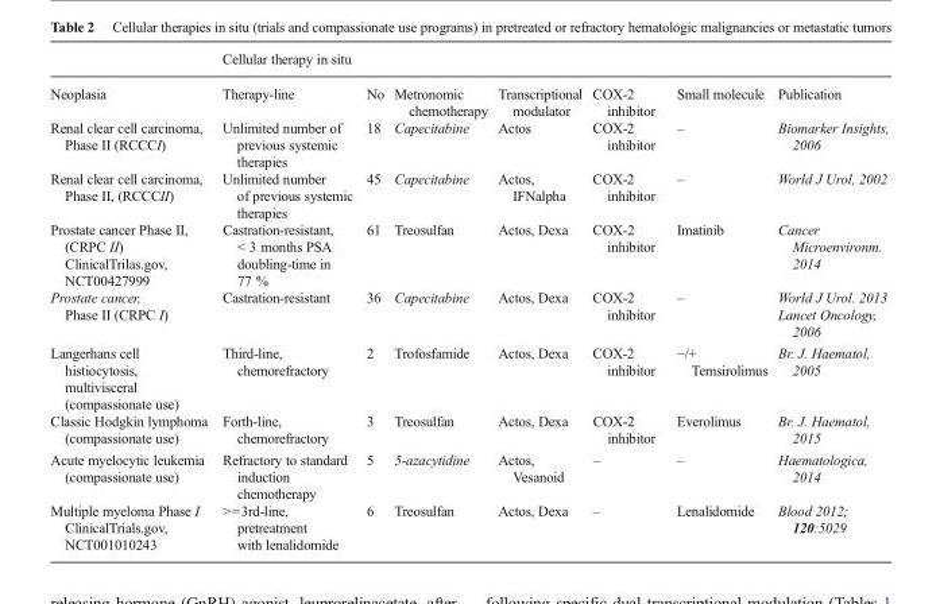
<table><thead><tr><td rowspan="2">Neoplasia</td><td colspan="7">Cellular therapy in situ</td></tr><tr><td>Therapy-line</td><td>No</td><td>Metronomic chemotherapy</td><td>Transcriptional modulator</td><td>COX-2 inhibitor</td><td>Small molecule</td><td>Publication</td></tr></thead><tbody><tr><td>Renal clear cell carcinoma, Phase II (RCCCI)</td><td>Unlimited number of previous systemic therapies</td><td>18</td><td>Capecitabine</td><td>Actos</td><td>COX-2 inhibitor</td><td>–</td><td>Biomarker Insights, 2006</td></tr><tr><td>Renal clear cell carcinoma, Phase II, (RCCCII)</td><td>Unlimited number of previous systemic therapies</td><td>45</td><td>Capecitabine</td><td>Actos, IFNalpha</td><td>COX-2 inhibitor</td><td>–</td><td>World J Urol, 2002</td></tr><tr><td>Prostate cancer Phase II, (CRPC II) ClinicalTrilas.gov, NCT00427999</td><td>Castration-resistant, &lt; 3 months PSA doubling-time in 77 %</td><td>61</td><td>Treosulfan</td><td>Actos, Dexa</td><td>COX-2 inhibitor</td><td>Imatinib</td><td>Cancer Microenvironm. 2014</td></tr><tr><td>Prostate cancer, Phase II (CRPC I)</td><td>Castration-resistant</td><td>36</td><td>Capecitabine</td><td>Actos, Dexa</td><td>COX-2 inhibitor</td><td>–</td><td>World J Urol. 2013 Lancet Oncology, 2006</td></tr><tr><td>Langerhans cell histiocytosis, multivisceral (compassionate use)</td><td>Third-line, chemorefractory</td><td>2</td><td>Trofosfamide</td><td>Actos, Dexa</td><td>COX-2 inhibitor</td><td>−/+ Temsirolimus</td><td>Br. J. Haematol, 2005</td></tr><tr><td>Classic Hodgkin lymphoma (compassionate use)</td><td>Forth-line, chemorefractory</td><td>3</td><td>Treosulfan</td><td>Actos, Dexa</td><td>COX-2 inhibitor</td><td>Everolimus</td><td>Br. J. Haematol, 2015</td></tr><tr><td>Acute myelocytic leukemia (compassionate use)</td><td>Refractory to standard induction chemotherapy</td><td>5</td><td>5-azacytidine</td><td>Actos, Vesanoid</td><td>–</td><td>–</td><td>Haematologica, 2014</td></tr><tr><td>Multiple myeloma Phase I ClinicalTrials.gov, NCT001010243</td><td>&gt;=3rd-line, pretreatment with lenalidomide</td><td>6</td><td>Treosulfan</td><td>Actos, Dexa</td><td>–</td><td>Lenalidomide</td><td>Blood 2012; 120:5029</td></tr></tbody></table>